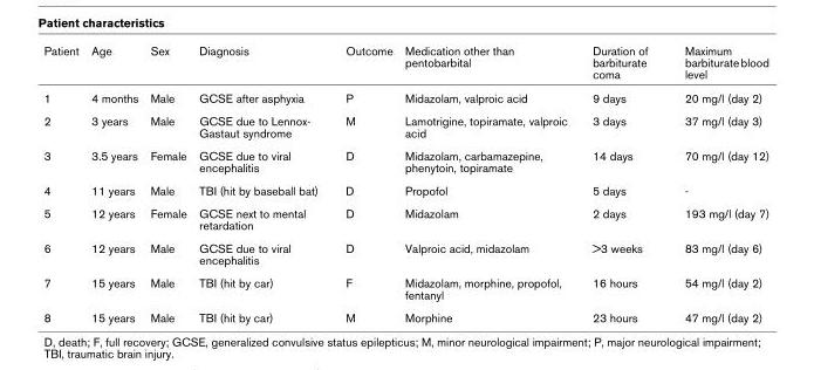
<table><thead><tr><td>Patient</td><td>Age</td><td>Sex</td><td>Diagnosis</td><td>Outcome</td><td>Medication other than pentobarbital</td><td>Duration of barbiturate coma</td><td>Maximum barbiturate blood level</td></tr></thead><tbody><tr><td>1</td><td>4 months</td><td>Male</td><td>GCSE after asphyxia</td><td>P</td><td>Midazolam, valproic acid</td><td>9 days</td><td>20 mg/l (day 2)</td></tr><tr><td>2</td><td>3 years</td><td>Male</td><td>GCSE due to Lennox- Gastaut syndrome</td><td>M</td><td>Lamotrigine, topiramate, valproic acid</td><td>3 days</td><td>37 mg/l (day 3)</td></tr><tr><td>3</td><td>3.5 years</td><td>Female</td><td>GCSE due to viral encephalitis</td><td>D</td><td>Midazolam, carbamazepine, phenytoin, topiramate</td><td>14 days</td><td>70 mg/l (day 12)</td></tr><tr><td>4</td><td>11 years</td><td>Male</td><td>TBI (hit by baseball bat)</td><td>D</td><td>Propofol</td><td>5 days</td><td>-</td></tr><tr><td>5</td><td>12 years</td><td>Female</td><td>GCSE next to mental retardation</td><td>D</td><td>Midazolam</td><td>2 days</td><td>193 mg/l (day 7)</td></tr><tr><td>6</td><td>12 years</td><td>Male</td><td>GCSE due to viral encephalitis</td><td>D</td><td>Valproic acid, midazolam</td><td>&gt;3 weeks</td><td>83 mg/l (day 6)</td></tr><tr><td>7</td><td>15 years</td><td>Male</td><td>TBI (hit by car)</td><td>F</td><td>Midazolam, morphine, propofol, fentanyl</td><td>16 hours</td><td>54 mg/l (day 2)</td></tr><tr><td>8</td><td>15 years</td><td>Male</td><td>TBI (hit by car)</td><td>M</td><td>Morphine</td><td>23 hours</td><td>47 mg/l (day 2)</td></tr></tbody></table>